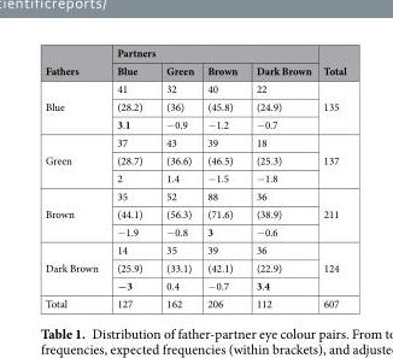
<table><thead><tr><td rowspan="2">Fathers</td><td colspan="4">Partners</td><td rowspan="2">Total</td></tr><tr><td>Blue</td><td>Green</td><td>Brown</td><td>Dark Brown</td></tr></thead><tbody><tr><td rowspan="3">Blue</td><td>41</td><td>32</td><td>40</td><td>22</td><td rowspan="3">135</td></tr><tr><td>(28.2)</td><td>(36)</td><td>(45.8)</td><td>(24.9)</td></tr><tr><td>3.1</td><td>−0.9</td><td>−1.2</td><td>−0.7</td></tr><tr><td rowspan="3">Green</td><td>37</td><td>43</td><td>39</td><td>18</td><td rowspan="3">137</td></tr><tr><td>(28.7)</td><td>(36.6)</td><td>(46.5)</td><td>(25.3)</td></tr><tr><td>2</td><td>1.4</td><td>−1.5</td><td>−1.8</td></tr><tr><td rowspan="3">Brown</td><td>35</td><td>52</td><td>88</td><td>36</td><td rowspan="3">211</td></tr><tr><td>(44.1)</td><td>(56.3)</td><td>(71.6)</td><td>(38.9)</td></tr><tr><td>−1.9</td><td>−0.8</td><td>3</td><td>−0.6</td></tr><tr><td rowspan="3">Dark Brown</td><td>14</td><td>35</td><td>39</td><td>36</td><td rowspan="3">124</td></tr><tr><td>(25.9)</td><td>(33.1)</td><td>(42.1)</td><td>(22.9)</td></tr><tr><td>−3</td><td>0.4</td><td>−0.7</td><td>3.4</td></tr><tr><td>Total</td><td>127</td><td>162</td><td>206</td><td>112</td><td>607</td></tr></tbody></table>